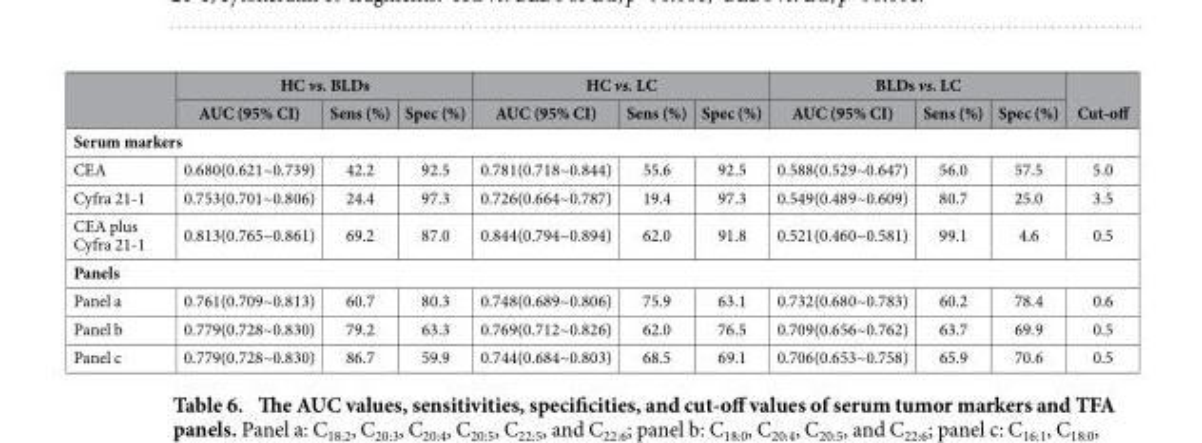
<table><thead><tr><td rowspan="2"></td><td colspan="3">HC vs. BLDs</td><td colspan="3">HC vs. LC</td><td colspan="3">BLDs vs. LC</td><td rowspan="2">Cut-off</td></tr><tr><td>AUC (95% CI)</td><td>Sens (%)</td><td>Spec (%)</td><td>AUC (95% CI)</td><td>Sens (%)</td><td>Spec (%)</td><td>AUC (95% CI)</td><td>Sens (%)</td><td>Spec (%)</td></tr></thead><tbody><tr><td colspan="11">Serum markers</td></tr><tr><td>CEA</td><td>0.680(0.621~0.739)</td><td>42.2</td><td>92.5</td><td>0.781(0.718~0.844)</td><td>55.6</td><td>92.5</td><td>0.588(0.529~0.647)</td><td>56.0</td><td>57.5</td><td>5.0</td></tr><tr><td>Cyfra 21-1</td><td>0.753(0.701~0.806)</td><td>24.4</td><td>97.3</td><td>0.726(0.664~0.787)</td><td>19.4</td><td>97.3</td><td>0.549(0.489~0.609)</td><td>80.7</td><td>25.0</td><td>3.5</td></tr><tr><td>CEA plus Cyfra 21-1</td><td>0.813(0.765~0.861)</td><td>69.2</td><td>87.0</td><td>0.844(0.794~0.894)</td><td>62.0</td><td>91.8</td><td>0.521(0.460~0.581)</td><td>99.1</td><td>4.6</td><td>0.5</td></tr><tr><td colspan="11">Panels</td></tr><tr><td>Panel a</td><td>0.761(0.709~0.813)</td><td>60.7</td><td>80.3</td><td>0.748(0.689~0.806)</td><td>75.9</td><td>63.1</td><td>0.732(0.680~0.783)</td><td>60.2</td><td>78.4</td><td>0.6</td></tr><tr><td>Panel b</td><td>0.779(0.728~0.830)</td><td>79.2</td><td>63.3</td><td>0.769(0.712~0.826)</td><td>62.0</td><td>76.5</td><td>0.709(0.656~0.762)</td><td>63.7</td><td>69.9</td><td>0.5</td></tr><tr><td>Panel c</td><td>0.779(0.728~0.830)</td><td>86.7</td><td>59.9</td><td>0.744(0.684~0.803)</td><td>68.5</td><td>69.1</td><td>0.706(0.653~0.758)</td><td>65.9</td><td>70.6</td><td>0.5</td></tr></tbody></table>